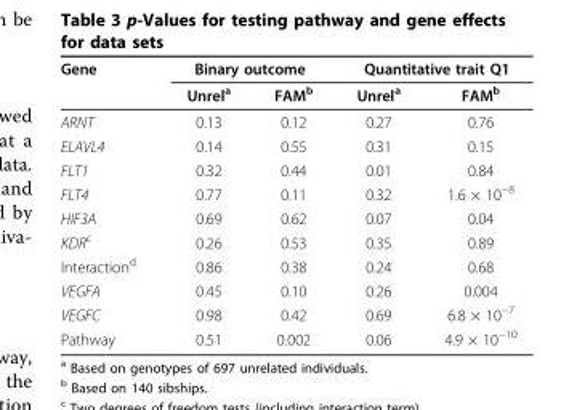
<table><thead><tr><td rowspan="2">Gene</td><td colspan="2">Binary outcome</td><td colspan="2">Quantitative trait Q1</td></tr><tr><td>Unrel<sup>a</sup></td><td>FAM<sup>b</sup></td><td>Unrel<sup>a</sup></td><td>FAM<sup>b</sup></td></tr></thead><tbody><tr><td>ARNT</td><td>0.13</td><td>0.12</td><td>0.27</td><td>0.76</td></tr><tr><td>ELAVL4</td><td>0.14</td><td>0.55</td><td>0.31</td><td>0.15</td></tr><tr><td>FLT1</td><td>0.32</td><td>0.44</td><td>0.01</td><td>0.84</td></tr><tr><td>FLT4</td><td>0.77</td><td>0.11</td><td>0.32</td><td>1.6 × 10<sup>−8</sup></td></tr><tr><td>HIF3A</td><td>0.69</td><td>0.62</td><td>0.07</td><td>0.04</td></tr><tr><td>KDR<sup>c</sup></td><td>0.26</td><td>0.53</td><td>0.35</td><td>0.89</td></tr><tr><td>Interaction<sup>d</sup></td><td>0.86</td><td>0.38</td><td>0.24</td><td>0.68</td></tr><tr><td>VEGFA</td><td>0.45</td><td>0.10</td><td>0.26</td><td>0.004</td></tr><tr><td>VEGFC</td><td>0.98</td><td>0.42</td><td>0.69</td><td>6.8 × 10<sup>−7</sup></td></tr><tr><td>Pathway</td><td>0.51</td><td>0.002</td><td>0.06</td><td>4.9 × 10<sup>−10</sup></td></tr></tbody></table>